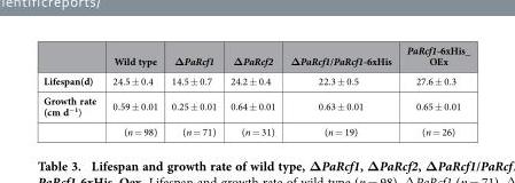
<table><thead><tr><td></td><td>Wild type</td><td>ΔPaRcf1</td><td>ΔPaRcf2</td><td>ΔPaRcf1/PaRcf1-6xHis</td><td>PaRcf1-6xHis_ OEx</td></tr></thead><tbody><tr><td>Lifespan(d)</td><td>24.5 ± 0.4</td><td>14.5 ± 0.7</td><td>24.2 ± 0.4</td><td>22.3 ± 0.5</td><td>27.6 ± 0.3</td></tr><tr><td rowspan="2">Growth rate (cm d<sup>−1</sup>)</td><td>0.59 ± 0.01</td><td>0.25 ± 0.01</td><td>0.64 ± 0.01</td><td>0.63 ± 0.01</td><td>0.65 ± 0.01</td></tr><tr><td>(n = 98)</td><td>(n = 71)</td><td>(n = 31)</td><td>(n = 19)</td><td>(n = 26)</td></tr></tbody></table>